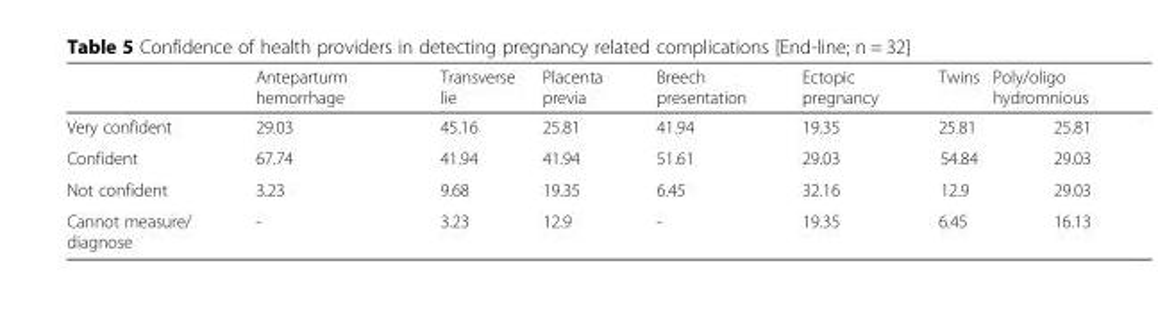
<table><thead><tr><td></td><td>Anteparturm hemorrhage</td><td>Transverse lie</td><td>Placenta previa</td><td>Breech presentation</td><td>Ectopic pregnancy</td><td>Twins</td><td>Poly/oligo hydromnious</td></tr></thead><tbody><tr><td>Very confident</td><td>29.03</td><td>45.16</td><td>25.81</td><td>41.94</td><td>19.35</td><td>25.81</td><td>25.81</td></tr><tr><td>Confident</td><td>67.74</td><td>41.94</td><td>41.94</td><td>51.61</td><td>29.03</td><td>54.84</td><td>29.03</td></tr><tr><td>Not confident</td><td>3.23</td><td>9.68</td><td>19.35</td><td>6.45</td><td>32.16</td><td>12.9</td><td>29.03</td></tr><tr><td>Cannot measure/ diagnose</td><td>-</td><td>3.23</td><td>12.9</td><td>-</td><td>19.35</td><td>6.45</td><td>16.13</td></tr></tbody></table>